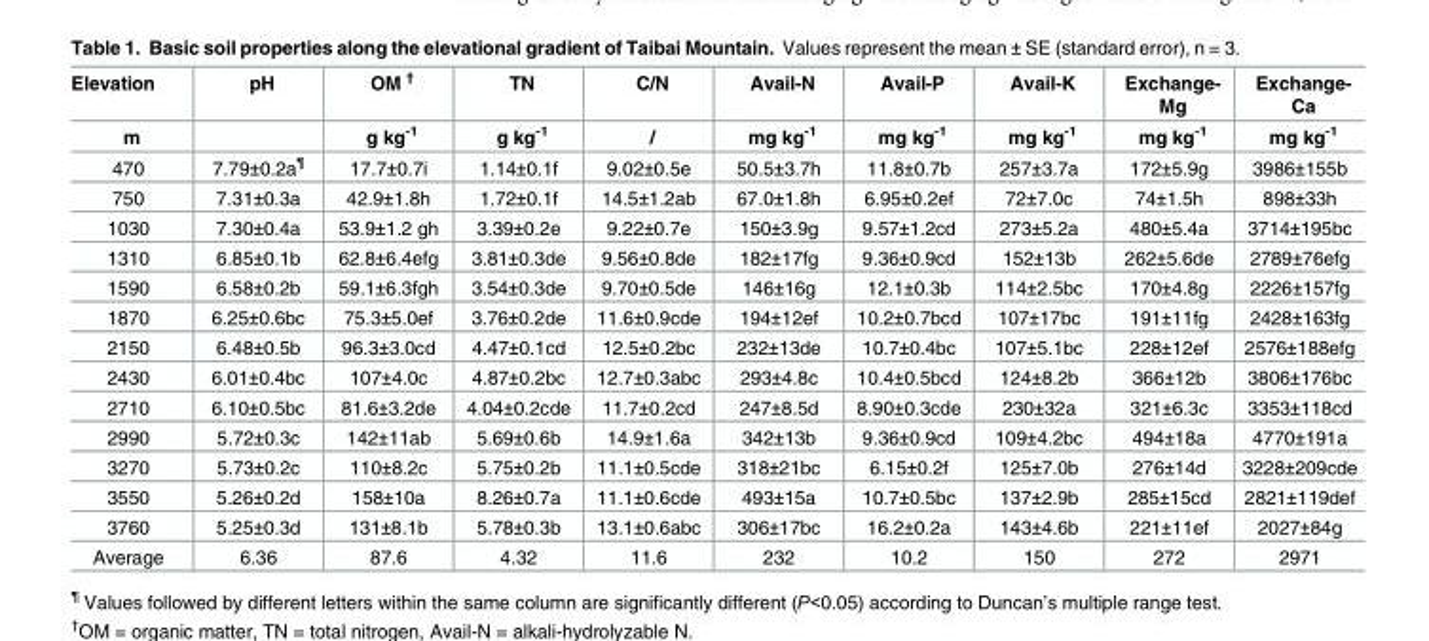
<table><thead><tr><td rowspan="2">Elevation m</td><td rowspan="2">pH</td><td rowspan="2">OM <sup>†</sup> g kg<sup>-1</sup></td><td rowspan="2">TN g kg<sup>-1</sup></td><td rowspan="2">C/N /</td><td rowspan="2">Avail-N mg kg<sup>-1</sup></td><td rowspan="2">Avail-P mg kg<sup>-1</sup></td><td rowspan="2">Avail-K mg kg<sup>-1</sup></td><td rowspan="2">Exchange- Mg mg kg<sup>-1</sup></td><td rowspan="2">Exchange- Ca mg kg<sup>-1</sup></td></tr><tr></tr></thead><tbody><tr><td>470</td><td>7.79±0.2a<sup>¶</sup></td><td>17.7±0.7i</td><td>1.14±0.1f</td><td>9.02±0.5e</td><td>50.5±3.7h</td><td>11.8±0.7b</td><td>257±3.7a</td><td>172±5.9g</td><td>3986±155b</td></tr><tr><td>750</td><td>7.31±0.3a</td><td>42.9±1.8h</td><td>1.72±0.1f</td><td>14.5±1.2ab</td><td>67.0±1.8h</td><td>6.95±0.2ef</td><td>72±7.0c</td><td>74±1.5h</td><td>898±33h</td></tr><tr><td>1030</td><td>7.30±0.4a</td><td>53.9±1.2 gh</td><td>3.39±0.2e</td><td>9.22±0.7e</td><td>150±3.9g</td><td>9.57±1.2cd</td><td>273±5.2a</td><td>480±5.4a</td><td>3714±195bc</td></tr><tr><td>1310</td><td>6.85±0.1b</td><td>62.8±6.4efg</td><td>3.81±0.3de</td><td>9.56±0.8de</td><td>182±17fg</td><td>9.36±0.9cd</td><td>152±13b</td><td>262±5.6de</td><td>2789±76efg</td></tr><tr><td>1590</td><td>6.58±0.2b</td><td>59.1±6.3fgh</td><td>3.54±0.3de</td><td>9.70±0.5de</td><td>146±16g</td><td>12.1±0.3b</td><td>114±2.5bc</td><td>170±4.8g</td><td>2226±157fg</td></tr><tr><td>1870</td><td>6.25±0.6bc</td><td>75.3±5.0ef</td><td>3.76±0.2de</td><td>11.6±0.9cde</td><td>194±12ef</td><td>10.2±0.7bcd</td><td>107±17bc</td><td>191±11fg</td><td>2428±163fg</td></tr><tr><td>2150</td><td>6.48±0.5b</td><td>96.3±3.0cd</td><td>4.47±0.1cd</td><td>12.5±0.2bc</td><td>232±13de</td><td>10.7±0.4bc</td><td>107±5.1bc</td><td>228±12ef</td><td>2576±188efg</td></tr><tr><td>2430</td><td>6.01±0.4bc</td><td>107±4.0c</td><td>4.87±0.2bc</td><td>12.7±0.3abc</td><td>293±4.8c</td><td>10.4±0.5bcd</td><td>124±8.2b</td><td>366±12b</td><td>3806±176bc</td></tr><tr><td>2710</td><td>6.10±0.5bc</td><td>81.6±3.2de</td><td>4.04±0.2cde</td><td>11.7±0.2cd</td><td>247±8.5d</td><td>8.90±0.3cde</td><td>230±32a</td><td>321±6.3c</td><td>3353±118cd</td></tr><tr><td>2990</td><td>5.72±0.3c</td><td>142±11ab</td><td>5.69±0.6b</td><td>14.9±1.6a</td><td>342±13b</td><td>9.36±0.9cd</td><td>109±4.2bc</td><td>494±18a</td><td>4770±191a</td></tr><tr><td>3270</td><td>5.73±0.2c</td><td>110±8.2c</td><td>5.75±0.2b</td><td>11.1±0.5cde</td><td>318±21bc</td><td>6.15±0.2f</td><td>125±7.0b</td><td>276±14d</td><td>3228±209cde</td></tr><tr><td>3550</td><td>5.26±0.2d</td><td>158±10a</td><td>8.26±0.7a</td><td>11.1±0.6cde</td><td>493±15a</td><td>10.7±0.5bc</td><td>137±2.9b</td><td>285±15cd</td><td>2821±119def</td></tr><tr><td>3760</td><td>5.25±0.3d</td><td>131±8.1b</td><td>5.78±0.3b</td><td>13.1±0.6abc</td><td>306±17bc</td><td>16.2±0.2a</td><td>143±4.6b</td><td>221±11ef</td><td>2027±84g</td></tr><tr><td>Average</td><td>6.36</td><td>87.6</td><td>4.32</td><td>11.6</td><td>232</td><td>10.2</td><td>150</td><td>272</td><td>2971</td></tr></tbody></table>